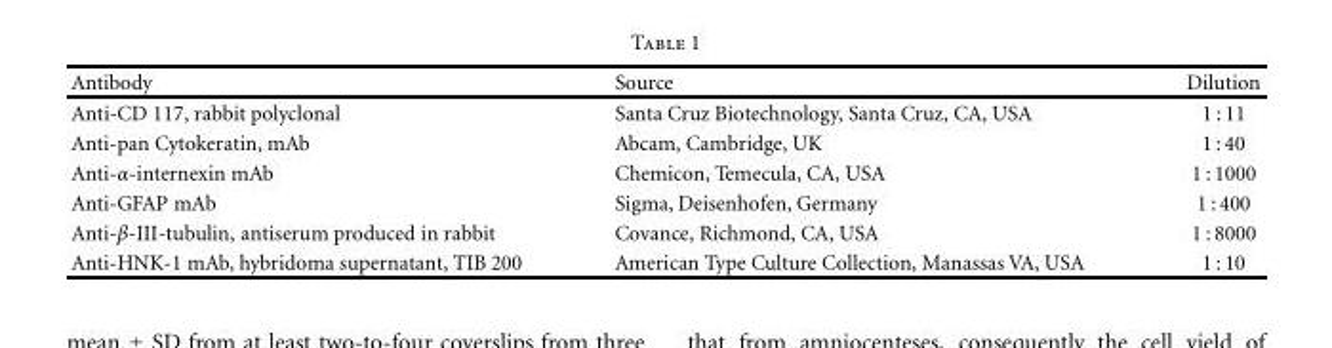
<table><thead><tr><td>Antibody</td><td>Source</td><td>Dilution</td></tr></thead><tbody><tr><td>Anti-CD 117, rabbit polyclonal</td><td>Santa Cruz Biotechnology, Santa Cruz, CA, USA</td><td>1 : 11</td></tr><tr><td>Anti-pan Cytokeratin, mAb</td><td>Abcam, Cambridge, UK</td><td>1 : 40</td></tr><tr><td>Anti-α-internexin mAb</td><td>Chemicon, Temecula, CA, USA</td><td>1 : 1000</td></tr><tr><td>Anti-GFAP mAb</td><td>Sigma, Deisenhofen, Germany</td><td>1 : 400</td></tr><tr><td>Anti-β-III-tubulin, antiserum produced in rabbit</td><td>Covance, Richmond, CA, USA</td><td>1 : 8000</td></tr><tr><td>Anti-HNK-1 mAb, hybridoma supernatant, TIB 200</td><td>American Type Culture Collection, Manassas VA, USA</td><td>1 : 10</td></tr></tbody></table>